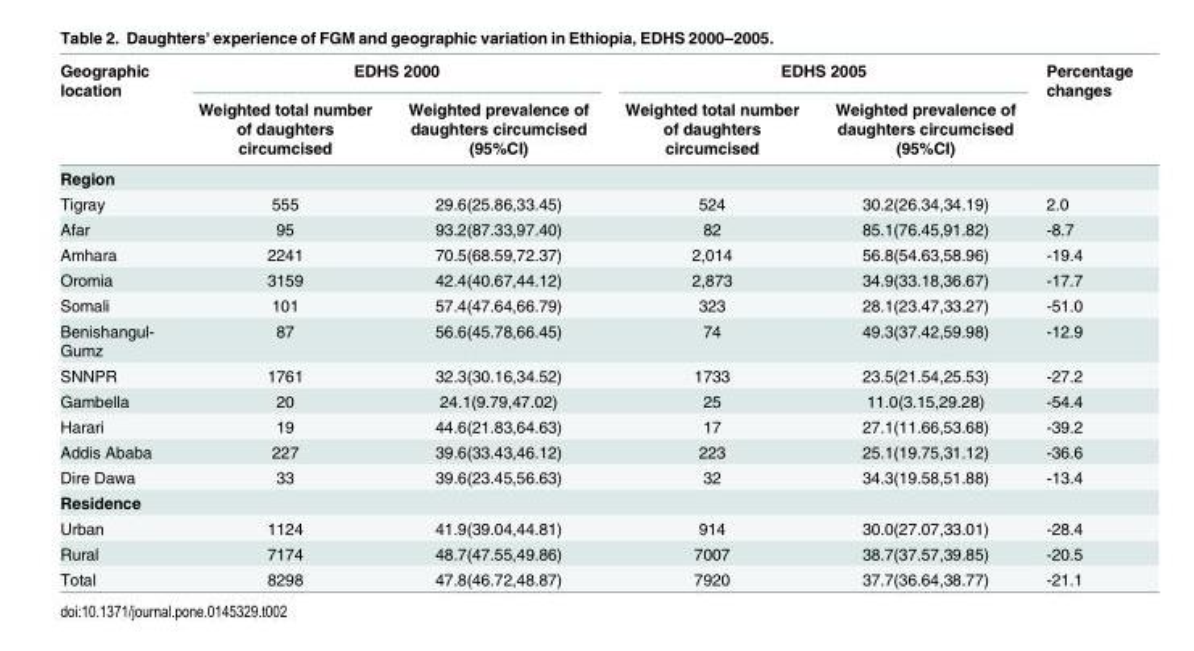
<table><thead><tr><td rowspan="2">Geographic location</td><td colspan="2">EDHS 2000</td><td colspan="2">EDHS 2005</td><td rowspan="2">Percentage changes</td></tr><tr><td>Weighted total number of daughters circumcised</td><td>Weighted prevalence of daughters circumcised (95%CI)</td><td>Weighted total number of daughters circumcised</td><td>Weighted prevalence of daughters circumcised (95%CI)</td></tr></thead><tbody><tr><td colspan="6">Region</td></tr><tr><td>Tigray</td><td>555</td><td>29.6(25.86,33.45)</td><td>524</td><td>30.2(26.34,34.19)</td><td>2.0</td></tr><tr><td>Afar</td><td>95</td><td>93.2(87.33,97.40)</td><td>82</td><td>85.1(76.45,91.82)</td><td>-8.7</td></tr><tr><td>Amhara</td><td>2241</td><td>70.5(68.59,72.37)</td><td>2,014</td><td>56.8(54.63,58.96)</td><td>-19.4</td></tr><tr><td>Oromia</td><td>3159</td><td>42.4(40.67,44.12)</td><td>2,873</td><td>34.9(33.18,36.67)</td><td>-17.7</td></tr><tr><td>Somali</td><td>101</td><td>57.4(47.64,66.79)</td><td>323</td><td>28.1(23.47,33.27)</td><td>-51.0</td></tr><tr><td>Benishangul- Gumz</td><td>87</td><td>56.6(45.78,66.45)</td><td>74</td><td>49.3(37.42,59.98)</td><td>-12.9</td></tr><tr><td>SNNPR</td><td>1761</td><td>32.3(30.16,34.52)</td><td>1733</td><td>23.5(21.54,25.53)</td><td>-27.2</td></tr><tr><td>Gambella</td><td>20</td><td>24.1(9.79,47.02)</td><td>25</td><td>11.0(3.15,29.28)</td><td>-54.4</td></tr><tr><td>Harari</td><td>19</td><td>44.6(21.83,64.63)</td><td>17</td><td>27.1(11.66,53.68)</td><td>-39.2</td></tr><tr><td>Addis Ababa</td><td>227</td><td>39.6(33.43,46.12)</td><td>223</td><td>25.1(19.75,31.12)</td><td>-36.6</td></tr><tr><td>Dire Dawa</td><td>33</td><td>39.6(23.45,56.63)</td><td>32</td><td>34.3(19.58,51.88)</td><td>-13.4</td></tr><tr><td colspan="6">Residence</td></tr><tr><td>Urban</td><td>1124</td><td>41.9(39.04,44.81)</td><td>914</td><td>30.0(27.07,33.01)</td><td>-28.4</td></tr><tr><td>Rural</td><td>7174</td><td>48.7(47.55,49.86)</td><td>7007</td><td>38.7(37.57,39.85)</td><td>-20.5</td></tr><tr><td>Total</td><td>8298</td><td>47.8(46.72,48.87)</td><td>7920</td><td>37.7(36.64,38.77)</td><td>-21.1</td></tr></tbody></table>